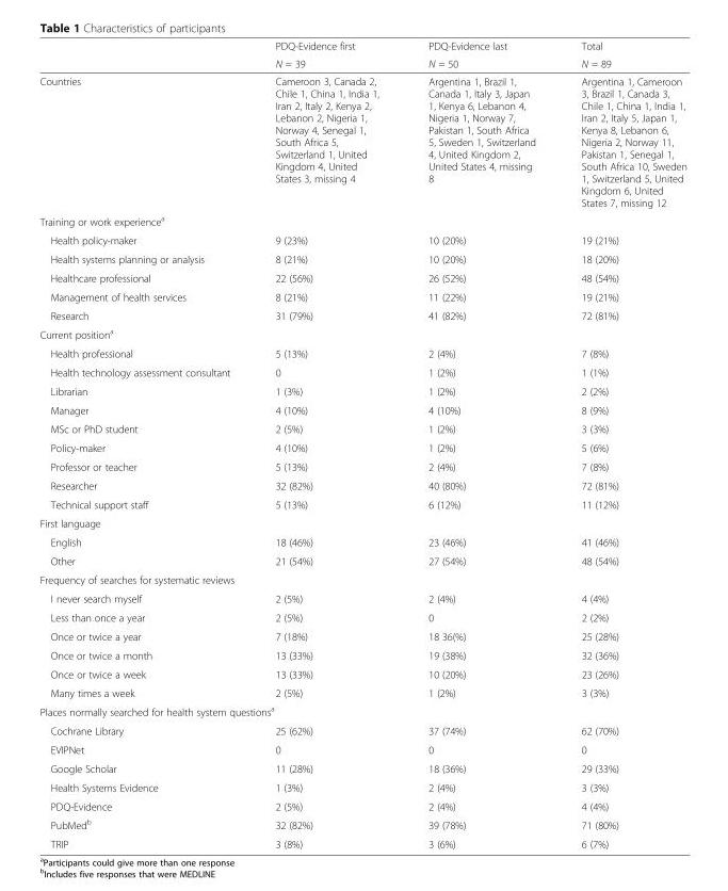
<table><thead><tr><td rowspan="2"></td><td rowspan="2">PDQ-Evidence first N = 39</td><td rowspan="2">PDQ-Evidence last N = 50</td><td rowspan="2">Total N = 89</td></tr><tr></tr></thead><tbody><tr><td>Countries</td><td>Cameroon 3, Canada 2, Chile 1, China 1, India 1, Iran 2, Italy 2, Kenya 2, Lebanon 2, Nigeria 1, Norway 4, Senegal 1, South Africa 5, Switzerland 1, United Kingdom 4, United States 3, missing 4</td><td>Argentina 1, Brazil 1, Canada 1, Italy 3, Japan 1, Kenya 6, Lebanon 4, Nigeria 1, Norway 7, Pakistan 1, South Africa 5, Sweden 1, Switzerland 4, United Kingdom 2, United States 4, missing 8</td><td>Argentina 1, Cameroon 3, Brazil 1, Canada 3, Chile 1, China 1, India 1, Iran 2, Italy 5, Japan 1, Kenya 8, Lebanon 6, Nigeria 2, Norway 11, Pakistan 1, Senegal 1, South Africa 10, Sweden 1, Switzerland 5, United Kingdom 6, United States 7, missing 12</td></tr><tr><td colspan="4">Training or work experience<sup>a</sup></td></tr><tr><td>Health policy-maker</td><td>9 (23%)</td><td>10 (20%)</td><td>19 (21%)</td></tr><tr><td>Health systems planning or analysis</td><td>8 (21%)</td><td>10 (20%)</td><td>18 (20%)</td></tr><tr><td>Healthcare professional</td><td>22 (56%)</td><td>26 (52%)</td><td>48 (54%)</td></tr><tr><td>Management of health services</td><td>8 (21%)</td><td>11 (22%)</td><td>19 (21%)</td></tr><tr><td>Research</td><td>31 (79%)</td><td>41 (82%)</td><td>72 (81%)</td></tr><tr><td colspan="4">Current position<sup>a</sup></td></tr><tr><td>Health professional</td><td>5 (13%)</td><td>2 (4%)</td><td>7 (8%)</td></tr><tr><td>Health technology assessment consultant</td><td>0</td><td>1 (2%)</td><td>1 (1%)</td></tr><tr><td>Librarian</td><td>1 (3%)</td><td>1 (2%)</td><td>2 (2%)</td></tr><tr><td>Manager</td><td>4 (10%)</td><td>4 (10%)</td><td>8 (9%)</td></tr><tr><td>MSc or PhD student</td><td>2 (5%)</td><td>1 (2%)</td><td>3 (3%)</td></tr><tr><td>Policy-maker</td><td>4 (10%)</td><td>1 (2%)</td><td>5 (6%)</td></tr><tr><td>Professor or teacher</td><td>5 (13%)</td><td>2 (4%)</td><td>7 (8%)</td></tr><tr><td>Researcher</td><td>32 (82%)</td><td>40 (80%)</td><td>72 (81%)</td></tr><tr><td>Technical support staff</td><td>5 (13%)</td><td>6 (12%)</td><td>11 (12%)</td></tr><tr><td colspan="4">First language</td></tr><tr><td>English</td><td>18 (46%)</td><td>23 (46%)</td><td>41 (46%)</td></tr><tr><td>Other</td><td>21 (54%)</td><td>27 (54%)</td><td>48 (54%)</td></tr><tr><td colspan="4">Frequency of searches for systematic reviews</td></tr><tr><td>I never search myself</td><td>2 (5%)</td><td>2 (4%)</td><td>4 (4%)</td></tr><tr><td>Less than once a year</td><td>2 (5%)</td><td>0</td><td>2 (2%)</td></tr><tr><td>Once or twice a year</td><td>7 (18%)</td><td>18 36(%)</td><td>25 (28%)</td></tr><tr><td>Once or twice a month</td><td>13 (33%)</td><td>19 (38%)</td><td>32 (36%)</td></tr><tr><td>Once or twice a week</td><td>13 (33%)</td><td>10 (20%)</td><td>23 (26%)</td></tr><tr><td>Many times a week</td><td>2 (5%)</td><td>1 (2%)</td><td>3 (3%)</td></tr><tr><td colspan="4">Places normally searched for health system questions<sup>a</sup></td></tr><tr><td>Cochrane Library</td><td>25 (62%)</td><td>37 (74%)</td><td>62 (70%)</td></tr><tr><td>EVIPNet</td><td>0</td><td>0</td><td>0</td></tr><tr><td>Google Scholar</td><td>11 (28%)</td><td>18 (36%)</td><td>29 (33%)</td></tr><tr><td>Health Systems Evidence</td><td>1 (3%)</td><td>2 (4%)</td><td>3 (3%)</td></tr><tr><td>PDQ-Evidence</td><td>2 (5%)</td><td>2 (4%)</td><td>4 (4%)</td></tr><tr><td>PubMed<sup>b</sup></td><td>32 (82%)</td><td>39 (78%)</td><td>71 (80%)</td></tr><tr><td>TRIP</td><td>3 (8%)</td><td>3 (6%)</td><td>6 (7%)</td></tr></tbody></table>